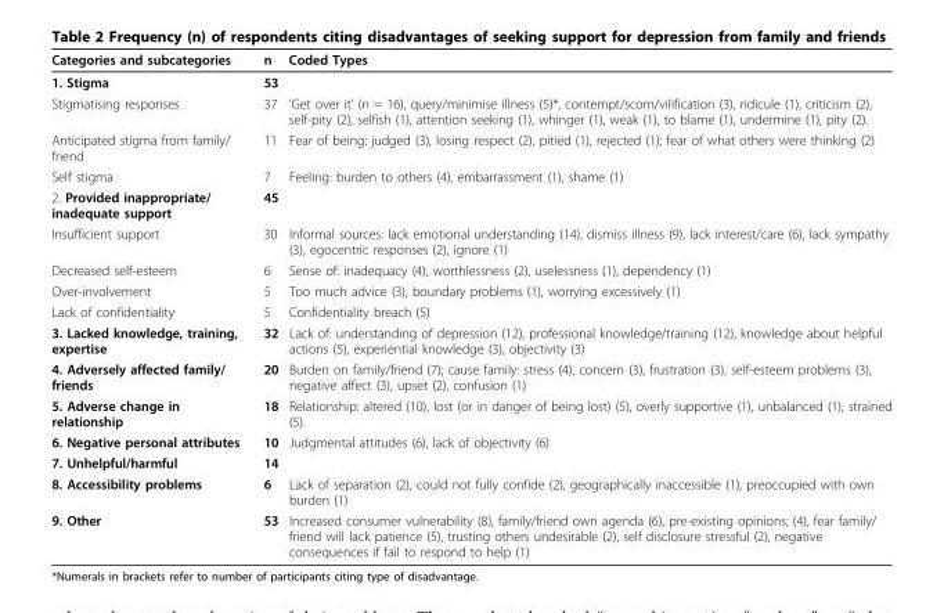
<table><thead><tr><td>Categories and subcategories</td><td>n</td><td>Coded Types</td></tr></thead><tbody><tr><td>1. Stigma</td><td>53</td><td></td></tr><tr><td>Stigmatising responses</td><td>37</td><td>’Get over it’ (n = 16), query/minimise illness (5)*, contempt/scorn/vilification (3), ridicule (1), criticism (2), self-pity (2), selfish (1), attention seeking (1), whinger (1), weak (1), to blame (1), undermine (1), pity (2).</td></tr><tr><td>Anticipated stigma from family/ friend</td><td>11</td><td>Fear of being: judged (3), losing respect (2), pitied (1), rejected (1); fear of what others were thinking (2)</td></tr><tr><td>Self stigma</td><td>7</td><td>Feeling: burden to others (4), embarrassment (1), shame (1)</td></tr><tr><td>2. Provided inappropriate/ inadequate support</td><td>45</td><td></td></tr><tr><td>Insufficient support</td><td>30</td><td>Informal sources: lack emotional understanding (14), dismiss illness (9), lack interest/care (6), lack sympathy (3), egocentric responses (2), ignore (1)</td></tr><tr><td>Decreased self-esteem</td><td>6</td><td>Sense of: inadequacy (4), worthlessness (2), uselessness (1), dependency (1)</td></tr><tr><td>Over-involvement</td><td>5</td><td>Too much advice (3), boundary problems (1), worrying excessively (1)</td></tr><tr><td>Lack of confidentiality</td><td>5</td><td>Confidentiality breach (5)</td></tr><tr><td>3. Lacked knowledge, training, expertise</td><td>32</td><td>Lack of: understanding of depression (12), professional knowledge/training (12), knowledge about helpful actions (5), experiential knowledge (3), objectivity (3)</td></tr><tr><td>4. Adversely affected family/ friends</td><td>20</td><td>Burden on family/friend (7); cause family: stress (4), concern (3), frustration (3), self-esteem problems (3), negative affect (3), upset (2), confusion (1)</td></tr><tr><td>5. Adverse change in relationship</td><td>18</td><td>Relationship: altered (10), lost (or in danger of being lost) (5), overly supportive (1), unbalanced (1), strained (5).</td></tr><tr><td>6. Negative personal attributes</td><td>10</td><td>Judgmental attitudes (6), lack of objectivity (6)</td></tr><tr><td>7. Unhelpful/harmful</td><td>14</td><td></td></tr><tr><td>8. Accessibility problems</td><td>6</td><td>Lack of separation (2), could not fully confide (2), geographically inaccessible (1), preoccupied with own burden (1)</td></tr><tr><td>9. Other</td><td>53</td><td>Increased consumer vulnerability (8), family/friend own agenda (6), pre-existing opinions; (4), fear family/ friend will lack patience (5), trusting others undesirable (2), self disclosure stressful (2), negative consequences if fail to respond to help (1)</td></tr></tbody></table>